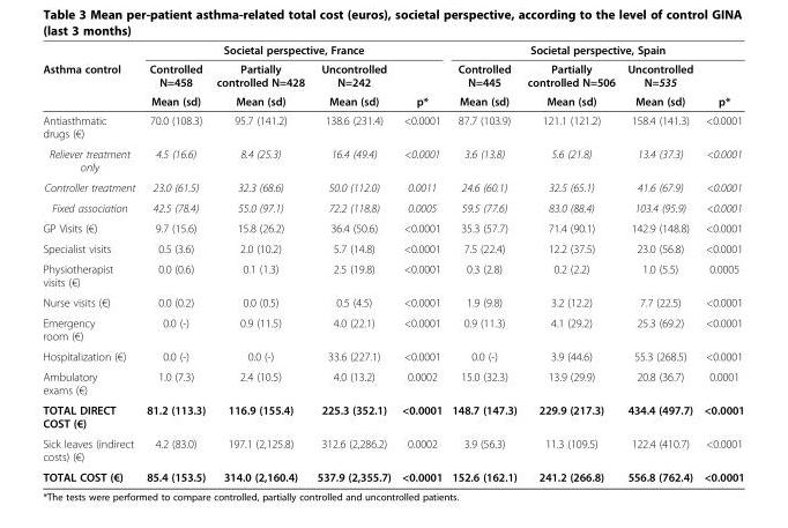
<table><thead><tr><td rowspan="3">Asthma control</td><td colspan="4">Societal perspective, France</td><td colspan="4">Societal perspective, Spain</td></tr><tr><td rowspan="2">Controlled N=458 Mean (sd)</td><td rowspan="2">Partially controlled N=428 Mean (sd)</td><td rowspan="2">Uncontrolled N=242 Mean (sd)</td><td rowspan="2">p*</td><td rowspan="2">Controlled N=445 Mean (sd)</td><td rowspan="2">Partially controlled N=506 Mean (sd)</td><td rowspan="2">Uncontrolled N=535 Mean (sd)</td><td rowspan="2">p*</td></tr><tr></tr></thead><tbody><tr><td>Antiasthmatic drugs (€)</td><td>70.0 (108.3)</td><td>95.7 (141.2)</td><td>138.6 (231.4)</td><td>&lt;0.0001</td><td>87.7 (103.9)</td><td>121.1 (121.2)</td><td>158.4 (141.3)</td><td>&lt;0.0001</td></tr><tr><td>Reliever treatment only</td><td>4.5 (16.6)</td><td>8.4 (25.3)</td><td>16.4 (49.4)</td><td>&lt;0.0001</td><td>3.6 (13.8)</td><td>5.6 (21.8)</td><td>13.4 (37.3)</td><td>&lt;0.0001</td></tr><tr><td>Controller treatment</td><td>23.0 (61.5)</td><td>32.3 (68.6)</td><td>50.0 (112.0)</td><td>0.0011</td><td>24.6 (60.1)</td><td>32.5 (65.1)</td><td>41.6 (67.9)</td><td>&lt;0.0001</td></tr><tr><td>Fixed association</td><td>42.5 (78.4)</td><td>55.0 (97.1)</td><td>72.2 (118.8)</td><td>0.0005</td><td>59.5 (77.6)</td><td>83.0 (88.4)</td><td>103.4 (95.9)</td><td>&lt;0.0001</td></tr><tr><td>GP Visits (€)</td><td>9.7 (15.6)</td><td>15.8 (26.2)</td><td>36.4 (50.6)</td><td>&lt;0.0001</td><td>35.3 (57.7)</td><td>71.4 (90.1)</td><td>142.9 (148.8)</td><td>&lt;0.0001</td></tr><tr><td>Specialist visits</td><td>0.5 (3.6)</td><td>2.0 (10.2)</td><td>5.7 (14.8)</td><td>&lt;0.0001</td><td>7.5 (22.4)</td><td>12.2 (37.5)</td><td>23.0 (56.8)</td><td>&lt;0.0001</td></tr><tr><td>Physiotherapist visits (€)</td><td>0.0 (0.6)</td><td>0.1 (1.3)</td><td>2.5 (19.8)</td><td>&lt;0.0001</td><td>0.3 (2.8)</td><td>0.2 (2.2)</td><td>1.0 (5.5)</td><td>0.0005</td></tr><tr><td>Nurse visits (€)</td><td>0.0 (0.2)</td><td>0.0 (0.5)</td><td>0.5 (4.5)</td><td>&lt;0.0001</td><td>1.9 (9.8)</td><td>3.2 (12.2)</td><td>7.7 (22.5)</td><td>&lt;0.0001</td></tr><tr><td>Emergency room (€)</td><td>0.0 (-)</td><td>0.9 (11.5)</td><td>4.0 (22.1)</td><td>&lt;0.0001</td><td>0.9 (11.3)</td><td>4.1 (29.2)</td><td>25.3 (69.2)</td><td>&lt;0.0001</td></tr><tr><td>Hospitalization (€)</td><td>0.0 (-)</td><td>0.0 (-)</td><td>33.6 (227.1)</td><td>&lt;0.0001</td><td>0.0 (-)</td><td>3.9 (44.6)</td><td>55.3 (268.5)</td><td>&lt;0.0001</td></tr><tr><td>Ambulatory exams (€)</td><td>1.0 (7.3)</td><td>2.4 (10.5)</td><td>4.0 (13.2)</td><td>0.0002</td><td>15.0 (32.3)</td><td>13.9 (29.9)</td><td>20.8 (36.7)</td><td>0.0001</td></tr><tr><td>TOTAL DIRECT COST (€)</td><td>81.2 (113.3)</td><td>116.9 (155.4)</td><td>225.3 (352.1)</td><td>&lt;0.0001</td><td>148.7 (147.3)</td><td>229.9 (217.3)</td><td>434.4 (497.7)</td><td>&lt;0.0001</td></tr><tr><td>Sick leaves (indirect costs) (€)</td><td>4.2 (83.0)</td><td>197.1 (2,125.8)</td><td>312.6 (2,286.2)</td><td>0.0002</td><td>3.9 (56.3)</td><td>11.3 (109.5)</td><td>122.4 (410.7)</td><td>&lt;0.0001</td></tr><tr><td>TOTAL COST (€)</td><td>85.4 (153.5)</td><td>314.0 (2,160.4)</td><td>537.9 (2,355.7)</td><td>&lt;0.0001</td><td>152.6 (162.1)</td><td>241.2 (266.8)</td><td>556.8 (762.4)</td><td>&lt;0.0001</td></tr></tbody></table>